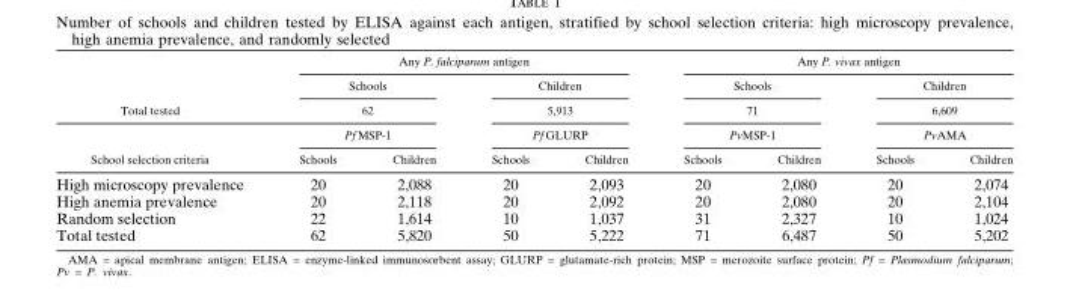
<table><thead><tr><td rowspan="5">Total tested School selection criteria</td><td colspan="4">Any P. falciparum antigen</td><td colspan="4">Any P. vivax antigen</td></tr><tr><td rowspan="3" colspan="2">Schools 62 Pf MSP-1</td><td rowspan="3" colspan="2">Children 5,913 Pf GLURP</td><td rowspan="3" colspan="2">Schools 71 PvMSP-1</td><td rowspan="3" colspan="2">Children 6,609 PvAMA</td></tr><tr></tr><tr></tr><tr><td>Schools</td><td>Children</td><td>Schools</td><td>Children</td><td>Schools</td><td>Children</td><td>Schools</td><td>Children</td></tr></thead><tbody><tr><td>High microscopy prevalence</td><td>20</td><td>2,088</td><td>20</td><td>2,093</td><td>20</td><td>2,080</td><td>20</td><td>2,074</td></tr><tr><td>High anemia prevalence</td><td>20</td><td>2,118</td><td>20</td><td>2,092</td><td>20</td><td>2,080</td><td>20</td><td>2,104</td></tr><tr><td>Random selection</td><td>22</td><td>1,614</td><td>10</td><td>1,037</td><td>31</td><td>2,327</td><td>10</td><td>1,024</td></tr><tr><td>Total tested</td><td>62</td><td>5,820</td><td>50</td><td>5,222</td><td>71</td><td>6,487</td><td>50</td><td>5,202</td></tr></tbody></table>